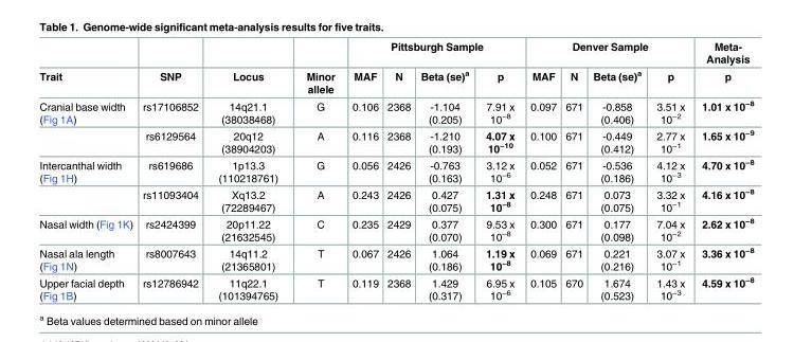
<table><thead><tr><td rowspan="2">Trait</td><td rowspan="2">SNP</td><td rowspan="2">Locus</td><td rowspan="2">Minor allele</td><td colspan="4">Pittsburgh Sample</td><td colspan="4">Denver Sample</td><td rowspan="2">Meta- Analysis p</td></tr><tr><td>MAF</td><td>N</td><td>Beta (se)<sup>a</sup></td><td>p</td><td>MAF</td><td>N</td><td>Beta (se)<sup>a</sup></td><td>p</td></tr></thead><tbody><tr><td rowspan="2">Cranial base width (Fig 1A)</td><td>rs17106852</td><td>14q21.1 (38038468)</td><td>G</td><td>0.106</td><td>2368</td><td>-1.104 (0.205)</td><td>7.91 x 10<sup>−8</sup></td><td>0.097</td><td>671</td><td>-0.858 (0.406)</td><td>3.51 x 10<sup>−2</sup></td><td>1.01 x 10<sup>−8</sup></td></tr><tr><td>rs6129564</td><td>20q12 (38904203)</td><td>A</td><td>0.116</td><td>2368</td><td>-1.210 (0.193)</td><td>4.07 x 10<sup>−10</sup></td><td>0.100</td><td>671</td><td>-0.449 (0.412)</td><td>2.77 x 10<sup>−1</sup></td><td>1.65 x 10<sup>−9</sup></td></tr><tr><td rowspan="2">Intercanthal width (Fig 1H)</td><td>rs619686</td><td>1p13.3 (110218761)</td><td>G</td><td>0.056</td><td>2426</td><td>-0.763 (0.163)</td><td>3.12 x 10<sup>−6</sup></td><td>0.052</td><td>671</td><td>-0.536 (0.186)</td><td>4.12 x 10<sup>−3</sup></td><td>4.70 x 10<sup>−8</sup></td></tr><tr><td>rs11093404</td><td>Xq13.2 (72289467)</td><td>A</td><td>0.243</td><td>2426</td><td>0.427 (0.075)</td><td>1.31 x 10<sup>−8</sup></td><td>0.248</td><td>671</td><td>0.073 (0.075)</td><td>3.32 x 10<sup>−1</sup></td><td>4.16 x 10<sup>−8</sup></td></tr><tr><td>Nasal width (Fig 1K)</td><td>rs2424399</td><td>20p11.22 (21632545)</td><td>C</td><td>0.235</td><td>2429</td><td>0.377 (0.070)</td><td>9.53 x 10<sup>−8</sup></td><td>0.300</td><td>671</td><td>0.177 (0.098)</td><td>7.04 x 10<sup>−2</sup></td><td>2.62 x 10<sup>−8</sup></td></tr><tr><td>Nasal ala length (Fig 1N)</td><td>rs8007643</td><td>14q11.2 (21365801)</td><td>T</td><td>0.067</td><td>2426</td><td>1.064 (0.186)</td><td>1.19 x 10<sup>−8</sup></td><td>0.069</td><td>671</td><td>0.221 (0.216)</td><td>3.07 x 10<sup>−1</sup></td><td>3.36 x 10<sup>−8</sup></td></tr><tr><td>Upper facial depth (Fig 1B)</td><td>rs12786942</td><td>11q22.1 (101394765)</td><td>T</td><td>0.119</td><td>2368</td><td>1.429 (0.317)</td><td>6.95 x 10<sup>−6</sup></td><td>0.105</td><td>670</td><td>1.674 (0.523)</td><td>1.43 x 10<sup>−3</sup></td><td>4.59 x 10<sup>−8</sup></td></tr></tbody></table>